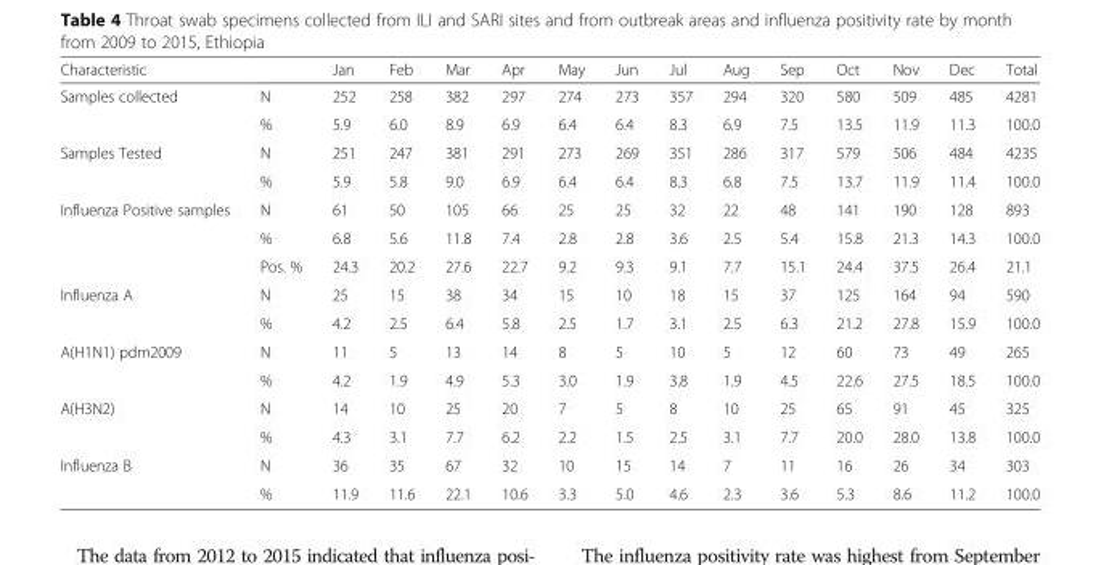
<table><thead><tr><td>Characteristic</td><td></td><td>Jan</td><td>Feb</td><td>Mar</td><td>Apr</td><td>May</td><td>Jun</td><td>Jul</td><td>Aug</td><td>Sep</td><td>Oct</td><td>Nov</td><td>Dec</td><td>Total</td></tr></thead><tbody><tr><td rowspan="2">Samples collected</td><td>N</td><td>252</td><td>258</td><td>382</td><td>297</td><td>274</td><td>273</td><td>357</td><td>294</td><td>320</td><td>580</td><td>509</td><td>485</td><td>4281</td></tr><tr><td>%</td><td>5.9</td><td>6.0</td><td>8.9</td><td>6.9</td><td>6.4</td><td>6.4</td><td>8.3</td><td>6.9</td><td>7.5</td><td>13.5</td><td>11.9</td><td>11.3</td><td>100.0</td></tr><tr><td rowspan="2">Samples Tested</td><td>N</td><td>251</td><td>247</td><td>381</td><td>291</td><td>273</td><td>269</td><td>351</td><td>286</td><td>317</td><td>579</td><td>506</td><td>484</td><td>4235</td></tr><tr><td>%</td><td>5.9</td><td>5.8</td><td>9.0</td><td>6.9</td><td>6.4</td><td>6.4</td><td>8.3</td><td>6.8</td><td>7.5</td><td>13.7</td><td>11.9</td><td>11.4</td><td>100.0</td></tr><tr><td rowspan="3">Influenza Positive samples</td><td>N</td><td>61</td><td>50</td><td>105</td><td>66</td><td>25</td><td>25</td><td>32</td><td>22</td><td>48</td><td>141</td><td>190</td><td>128</td><td>893</td></tr><tr><td>%</td><td>6.8</td><td>5.6</td><td>11.8</td><td>7.4</td><td>2.8</td><td>2.8</td><td>3.6</td><td>2.5</td><td>5.4</td><td>15.8</td><td>21.3</td><td>14.3</td><td>100.0</td></tr><tr><td>Pos. %</td><td>24.3</td><td>20.2</td><td>27.6</td><td>22.7</td><td>9.2</td><td>9.3</td><td>9.1</td><td>7.7</td><td>15.1</td><td>24.4</td><td>37.5</td><td>26.4</td><td>21.1</td></tr><tr><td rowspan="2">Influenza A</td><td>N</td><td>25</td><td>15</td><td>38</td><td>34</td><td>15</td><td>10</td><td>18</td><td>15</td><td>37</td><td>125</td><td>164</td><td>94</td><td>590</td></tr><tr><td>%</td><td>4.2</td><td>2.5</td><td>6.4</td><td>5.8</td><td>2.5</td><td>1.7</td><td>3.1</td><td>2.5</td><td>6.3</td><td>21.2</td><td>27.8</td><td>15.9</td><td>100.0</td></tr><tr><td rowspan="2">A(H1N1) pdm2009</td><td>N</td><td>11</td><td>5</td><td>13</td><td>14</td><td>8</td><td>5</td><td>10</td><td>5</td><td>12</td><td>60</td><td>73</td><td>49</td><td>265</td></tr><tr><td>%</td><td>4.2</td><td>1.9</td><td>4.9</td><td>5.3</td><td>3.0</td><td>1.9</td><td>3.8</td><td>1.9</td><td>4.5</td><td>22.6</td><td>27.5</td><td>18.5</td><td>100.0</td></tr><tr><td rowspan="2">A(H3N2)</td><td>N</td><td>14</td><td>10</td><td>25</td><td>20</td><td>7</td><td>5</td><td>8</td><td>10</td><td>25</td><td>65</td><td>91</td><td>45</td><td>325</td></tr><tr><td>%</td><td>4.3</td><td>3.1</td><td>7.7</td><td>6.2</td><td>2.2</td><td>1.5</td><td>2.5</td><td>3.1</td><td>7.7</td><td>20.0</td><td>28.0</td><td>13.8</td><td>100.0</td></tr><tr><td rowspan="2">Influenza B</td><td>N</td><td>36</td><td>35</td><td>67</td><td>32</td><td>10</td><td>15</td><td>14</td><td>7</td><td>11</td><td>16</td><td>26</td><td>34</td><td>303</td></tr><tr><td>%</td><td>11.9</td><td>11.6</td><td>22.1</td><td>10.6</td><td>3.3</td><td>5.0</td><td>4.6</td><td>2.3</td><td>3.6</td><td>5.3</td><td>8.6</td><td>11.2</td><td>100.0</td></tr></tbody></table>